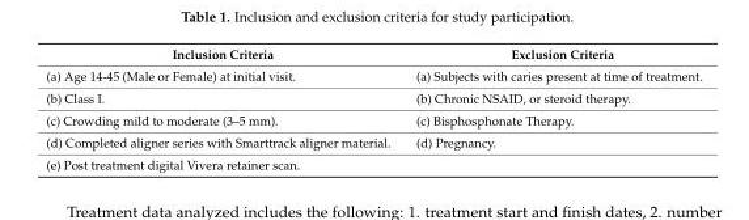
<table><thead><tr><td>Inclusion Criteria</td><td>Exclusion Criteria</td></tr></thead><tbody><tr><td>(a) Age 14-45 (Male or Female) at initial visit.</td><td>(a) Subjects with caries present at time of treatment.</td></tr><tr><td>(b) Class I.</td><td>(b) Chronic NSAID, or steroid therapy.</td></tr><tr><td>(c) Crowding mild to moderate (3–5 mm).</td><td>(c) Bisphosphonate Therapy.</td></tr><tr><td>(d) Completed aligner series with Smarttrack aligner material.</td><td>(d) Pregnancy.</td></tr><tr><td>(e) Post treatment digital Vivera retainer scan.</td><td></td></tr></tbody></table>